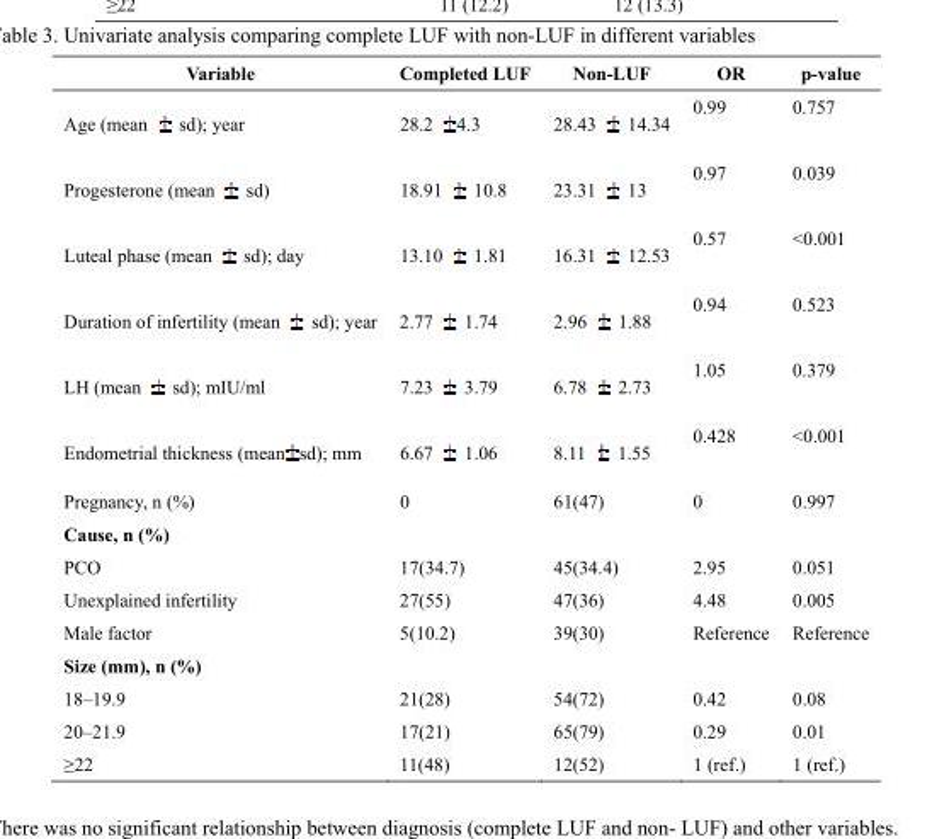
<table><thead><tr><td>Variable</td><td>Completed LUF</td><td>Non-LUF</td><td>OR</td><td>p-value</td></tr></thead><tbody><tr><td>Age (mean sd); year</td><td>28.2 4.3</td><td>28.43 14.34</td><td>0.99</td><td>0.757</td></tr><tr><td>Progesterone (mean sd)</td><td>18.91 10.8</td><td>23.31 13</td><td>0.97</td><td>0.039</td></tr><tr><td>Luteal phase (mean sd); day</td><td>13.10 1.81</td><td>16.31 12.53</td><td>0.57</td><td>&lt;0.001</td></tr><tr><td>Duration of infertility (mean sd); year</td><td>2.77 1.74</td><td>2.96 1.88</td><td>0.94</td><td>0.523</td></tr><tr><td>LH (mean sd); mIU/ml</td><td>7.23 3.79</td><td>6.78 2.73</td><td>1.05</td><td>0.379</td></tr><tr><td>Endometrial thickness (mean sd); mm</td><td>6.67 1.06</td><td>8.11 1.55</td><td>0.428</td><td>&lt;0.001</td></tr><tr><td>Pregnancy, n (%)</td><td>0</td><td>61(47)</td><td>0</td><td>0.997</td></tr><tr><td colspan="5">Cause, n (%)</td></tr><tr><td>PCO</td><td>17(34.7)</td><td>45(34.4)</td><td>2.95</td><td>0.051</td></tr><tr><td>Unexplained infertility</td><td>27(55)</td><td>47(36)</td><td>4.48</td><td>0.005</td></tr><tr><td>Male factor</td><td>5(10.2)</td><td>39(30)</td><td>Reference</td><td>Reference</td></tr><tr><td colspan="5">Size (mm), n (%)</td></tr><tr><td>18–19.9</td><td>21(28)</td><td>54(72)</td><td>0.42</td><td>0.08</td></tr><tr><td>20–21.9</td><td>17(21)</td><td>65(79)</td><td>0.29</td><td>0.01</td></tr><tr><td>≥22</td><td>11(48)</td><td>12(52)</td><td>1 (ref.)</td><td>1 (ref.)</td></tr></tbody></table>